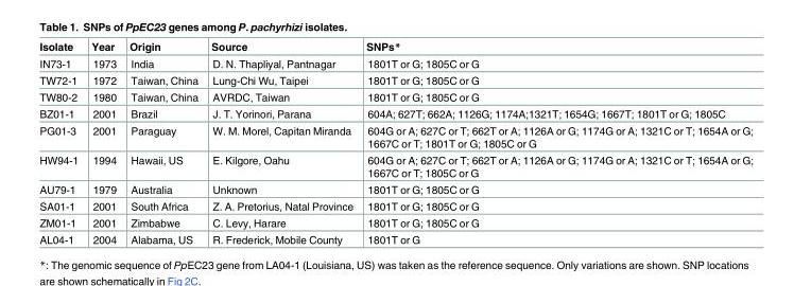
<table><thead><tr><td>Isolate</td><td>Year</td><td>Origin</td><td>Source</td><td>SNPs*</td></tr></thead><tbody><tr><td>IN73-1</td><td>1973</td><td>India</td><td>D. N. Thapliyal, Pantnagar</td><td>1801T or G; 1805C or G</td></tr><tr><td>TW72-1</td><td>1972</td><td>Taiwan, China</td><td>Lung-Chi Wu, Taipei</td><td>1801T or G; 1805C or G</td></tr><tr><td>TW80-2</td><td>1980</td><td>Taiwan, China</td><td>AVRDC, Taiwan</td><td>1801T or G; 1805C or G</td></tr><tr><td>BZ01-1</td><td>2001</td><td>Brazil</td><td>J. T. Yorinori, Parana</td><td>604A; 627T; 662A; 1126G; 1174A;1321T; 1654G; 1667T; 1801T or G; 1805C</td></tr><tr><td>PG01-3</td><td>2001</td><td>Paraguay</td><td>W. M. Morel, Capitan Miranda</td><td>604G or A; 627C or T; 662T or A; 1126A or G; 1174G or A; 1321C or T; 1654A or G; 1667C or T; 1801T or G; 1805C or G</td></tr><tr><td>HW94-1</td><td>1994</td><td>Hawaii, US</td><td>E. Kilgore, Oahu</td><td>604G or A; 627C or T; 662T or A; 1126A or G; 1174G or A; 1321C or T; 1654A or G; 1667C or T; 1805C or G</td></tr><tr><td>AU79-1</td><td>1979</td><td>Australia</td><td>Unknown</td><td>1801T or G; 1805C or G</td></tr><tr><td>SA01-1</td><td>2001</td><td>South Africa</td><td>Z. A. Pretorius, Natal Province</td><td>1801T or G; 1805C or G</td></tr><tr><td>ZM01-1</td><td>2001</td><td>Zimbabwe</td><td>C. Levy, Harare</td><td>1801T or G; 1805C or G</td></tr><tr><td>AL04-1</td><td>2004</td><td>Alabama, US</td><td>R. Frederick, Mobile County</td><td>1801T or G</td></tr></tbody></table>